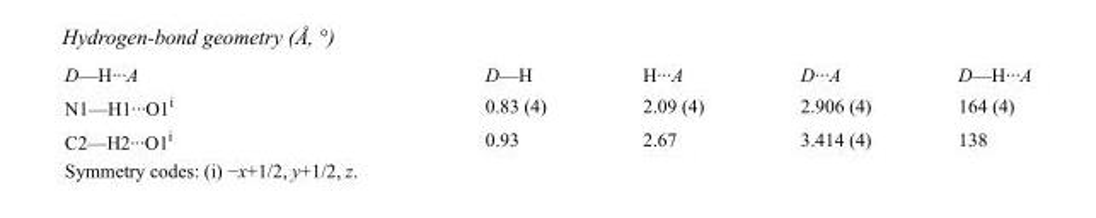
<table><tbody><tr><td>D—H···A</td><td>D—H</td><td>H···A</td><td>D···A</td><td>D—H···A</td></tr><tr><td>N1—H1···O1<sup>i</sup></td><td>0.83 (4)</td><td>2.09 (4)</td><td>2.906 (4)</td><td>164 (4)</td></tr><tr><td>C2—H2···O1<sup>i</sup></td><td>0.93</td><td>2.67</td><td>3.414 (4)</td><td>138</td></tr></tbody></table>